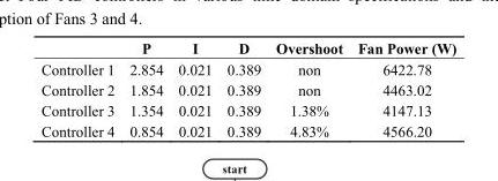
<table><thead><tr><td></td><td>P</td><td>I</td><td>D</td><td>Overshoot</td><td>Fan Power (W)</td></tr></thead><tbody><tr><td>Controller 1</td><td>2.854</td><td>0.021</td><td>0.389</td><td>non</td><td>6422.78</td></tr><tr><td>Controller 2</td><td>1.854</td><td>0.021</td><td>0.389</td><td>non</td><td>4463.02</td></tr><tr><td>Controller 3</td><td>1.354</td><td>0.021</td><td>0.389</td><td>1.38%</td><td>4147.13</td></tr><tr><td>Controller 4</td><td>0.854</td><td>0.021</td><td>0.389</td><td>4.83%</td><td>4566.20</td></tr></tbody></table>